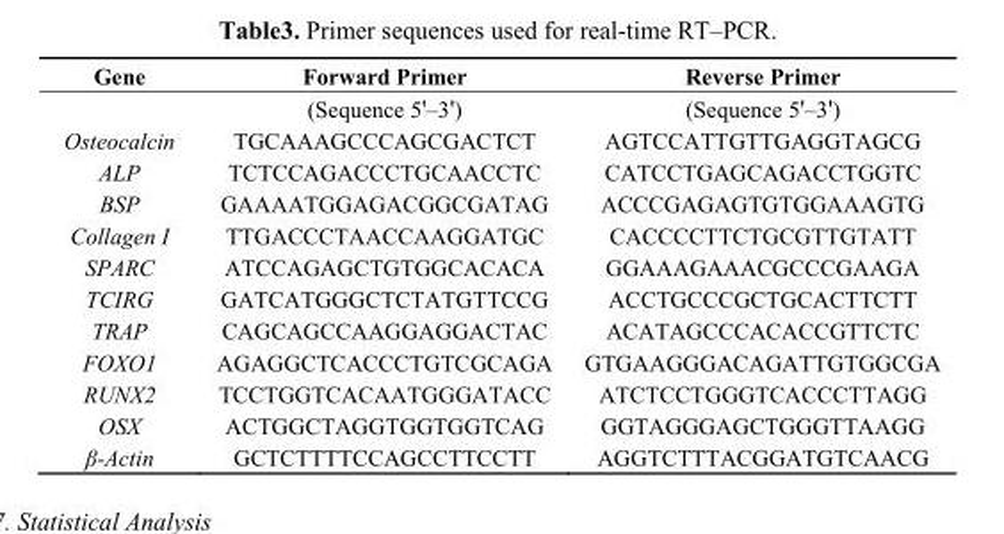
<table><thead><tr><td>Gene</td><td>Forward Primer</td><td>Reverse Primer</td></tr></thead><tbody><tr><td></td><td>(Sequence 5&#x27;–3&#x27;)</td><td>(Sequence 5&#x27;–3&#x27;)</td></tr><tr><td>Osteocalcin</td><td>TGCAAAGCCCAGCGACTCT</td><td>AGTCCATTGTTGAGGTAGCG</td></tr><tr><td>ALP</td><td>TCTCCAGACCCTGCAACCTC</td><td>CATCCTGAGCAGACCTGGTC</td></tr><tr><td>BSP</td><td>GAAAATGGAGACGGCGATAG</td><td>ACCCGAGAGTGTGGAAAGTG</td></tr><tr><td>Collagen I</td><td>TTGACCCTAACCAAGGATGC</td><td>CACCCCTTCTGCGTTGTATT</td></tr><tr><td>SPARC</td><td>ATCCAGAGCTGTGGCACACA</td><td>GGAAAGAAACGCCCGAAGA</td></tr><tr><td>TCIRG</td><td>GATCATGGGCTCTATGTTCCG</td><td>ACCTGCCCGCTGCACTTCTT</td></tr><tr><td>TRAP</td><td>CAGCAGCCAAGGAGGACTAC</td><td>ACATAGCCCACACCGTTCTC</td></tr><tr><td>FOXO1</td><td>AGAGGCTCACCCTGTCGCAGA</td><td>GTGAAGGGACAGATTGTGGCGA</td></tr><tr><td>RUNX2</td><td>TCCTGGTCACAATGGGATACC</td><td>ATCTCCTGGGTCACCCTTAGG</td></tr><tr><td>OSX</td><td>ACTGGCTAGGTGGTGGTCAG</td><td>GGTAGGGAGCTGGGTTAAGG</td></tr><tr><td>β-Actin</td><td>GCTCTTTTCCAGCCTTCCTT</td><td>AGGTCTTTACGGATGTCAACG</td></tr></tbody></table>